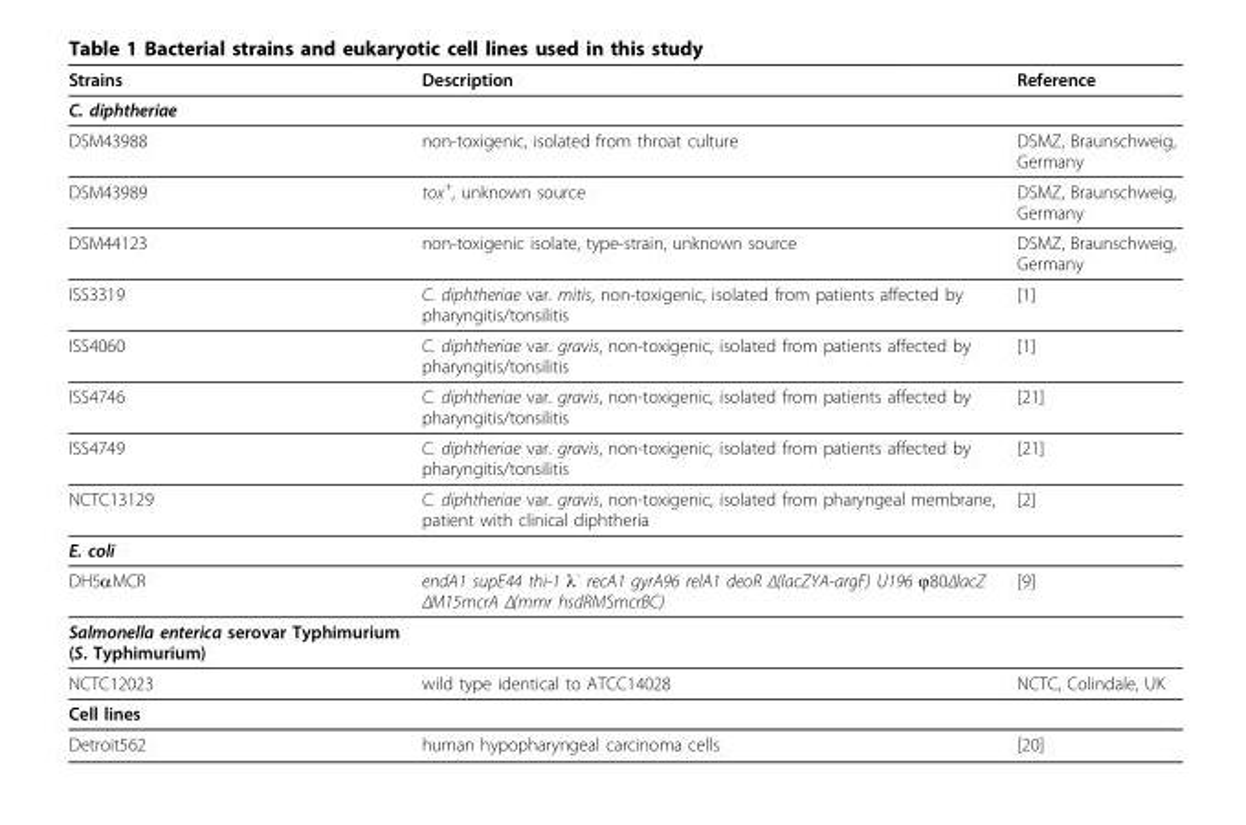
<table><thead><tr><td>Strains</td><td>Description</td><td>Reference</td></tr></thead><tbody><tr><td colspan="3">C. diphtheriae</td></tr><tr><td>DSM43988</td><td>non-toxigenic, isolated from throat culture</td><td>DSMZ, Braunschweig, Germany</td></tr><tr><td>DSM43989</td><td>tox<sup>+</sup>, unknown source</td><td>DSMZ, Braunschweig, Germany</td></tr><tr><td>DSM44123</td><td>non-toxigenic isolate, type-strain, unknown source</td><td>DSMZ, Braunschweig, Germany</td></tr><tr><td>ISS3319</td><td>C. diphtheriae var. mitis, non-toxigenic, isolated from patients affected by pharyngitis/tonsilitis</td><td>[1]</td></tr><tr><td>ISS4060</td><td>C. diphtheriae var. gravis, non-toxigenic, isolated from patients affected by pharyngitis/tonsilitis</td><td>[1]</td></tr><tr><td>ISS4746</td><td>C. diphtheriae var. gravis, non-toxigenic, isolated from patients affected by pharyngitis/tonsilitis</td><td>[21]</td></tr><tr><td>ISS4749</td><td>C. diphtheriae var. gravis, non-toxigenic, isolated from patients affected by pharyngitis/tonsilitis</td><td>[21]</td></tr><tr><td>NCTC13129</td><td>C. diphtheriae var. gravis, non-toxigenic, isolated from pharyngeal membrane, patient with clinical diphtheria</td><td>[2]</td></tr><tr><td colspan="3">E. coli</td></tr><tr><td>DH5αMCR</td><td>endA1 supE44 thi-1 λ<sup>-</sup> recA1 gyrA96 relA1 deoR Δ(lacZYA-argF) U196 ϕ80ΔlacZ ΔM15mcrA Δ(mmr hsdRMSmcrBC)</td><td>[9]</td></tr><tr><td colspan="3">Salmonella enterica serovar Typhimurium (S. Typhimurium)</td></tr><tr><td>NCTC12023</td><td>wild type identical to ATCC14028</td><td>NCTC, Colindale, UK</td></tr><tr><td colspan="3">Cell lines</td></tr><tr><td>Detroit562</td><td>human hypopharyngeal carcinoma cells</td><td>[20]</td></tr></tbody></table>